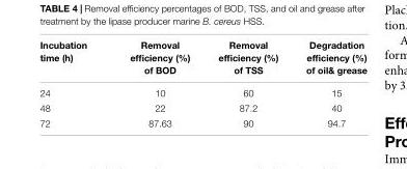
<table><thead><tr><td>Incubation time (h)</td><td>Removal efficiency (%) of BOD</td><td>Removal efficiency (%) of TSS</td><td>Degradation efficiency (%) of oil&amp; grease</td></tr></thead><tbody><tr><td>24</td><td>10</td><td>60</td><td>15</td></tr><tr><td>48</td><td>22</td><td>87.2</td><td>40</td></tr><tr><td>72</td><td>87.63</td><td>90</td><td>94.7</td></tr></tbody></table>